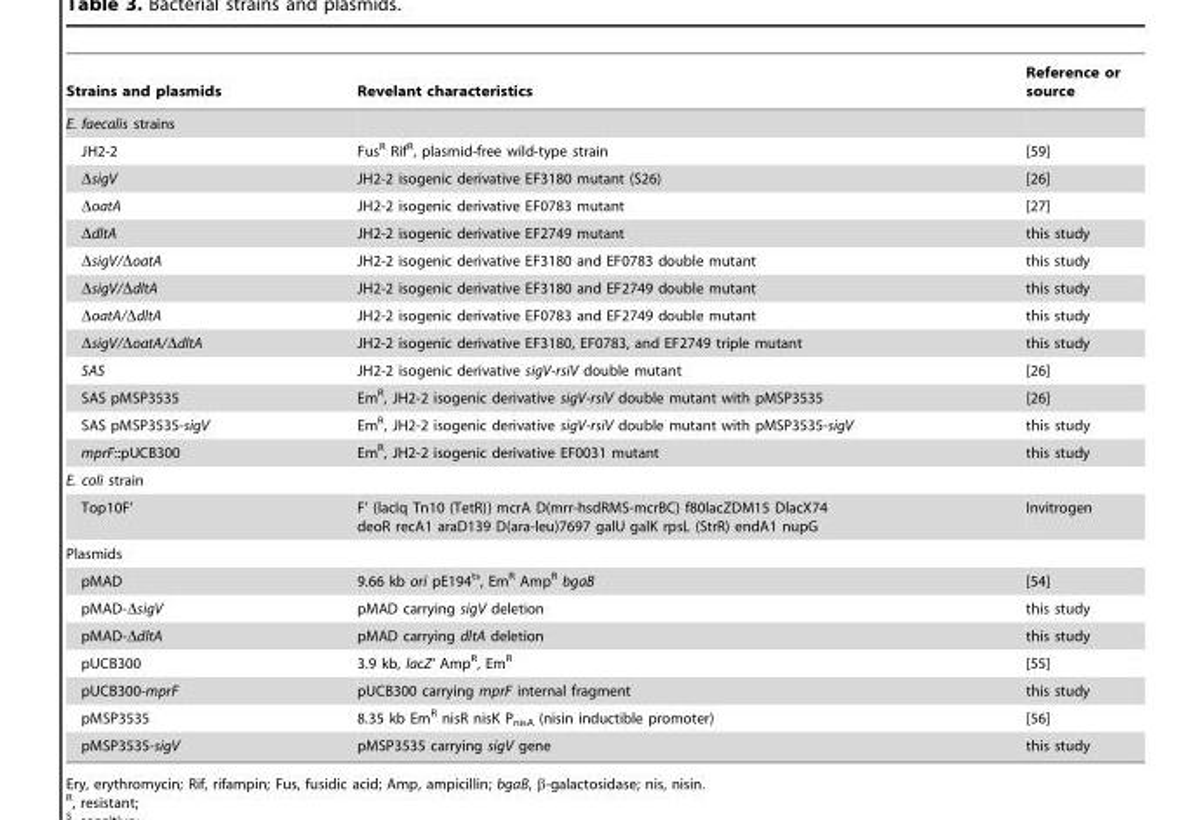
<table><thead><tr><td>Strains and plasmids</td><td>Revelant characteristics</td><td>Reference or source</td></tr></thead><tbody><tr><td colspan="3">E. faecalis strains</td></tr><tr><td>JH2-2</td><td>Fus<sup>R</sup> Rif<sup>R</sup>, plasmid-free wild-type strain</td><td>[59]</td></tr><tr><td>ΔsigV</td><td>JH2-2 isogenic derivative EF3180 mutant (S26)</td><td>[26]</td></tr><tr><td>ΔoatA</td><td>JH2-2 isogenic derivative EF0783 mutant</td><td>[27]</td></tr><tr><td>ΔdltA</td><td>JH2-2 isogenic derivative EF2749 mutant</td><td>this study</td></tr><tr><td>ΔsigV/ΔoatA</td><td>JH2-2 isogenic derivative EF3180 and EF0783 double mutant</td><td>this study</td></tr><tr><td>ΔsigV/ΔdltA</td><td>JH2-2 isogenic derivative EF3180 and EF2749 double mutant</td><td>this study</td></tr><tr><td>ΔoatA/ΔdltA</td><td>JH2-2 isogenic derivative EF0783 and EF2749 double mutant</td><td>this study</td></tr><tr><td>ΔsigV/ΔoatA/ΔdltA</td><td>JH2-2 isogenic derivative EF3180, EF0783, and EF2749 triple mutant</td><td>this study</td></tr><tr><td>SAS</td><td>JH2-2 isogenic derivative sigV-rsiV double mutant</td><td>[26]</td></tr><tr><td>SAS pMSP3535</td><td>Em<sup>R</sup>, JH2-2 isogenic derivative sigV-rsiV double mutant with pMSP3535</td><td>[26]</td></tr><tr><td>SAS pMSP3535-sigV</td><td>Em<sup>R</sup>, JH2-2 isogenic derivative sigV-rsiV double mutant with pMSP3535-sigV</td><td>this study</td></tr><tr><td>mprF::pUCB300</td><td>Em<sup>R</sup>, JH2-2 isogenic derivative EF0031 mutant</td><td>this study</td></tr><tr><td colspan="3">E. coli strain</td></tr><tr><td>Top10F’</td><td>F’ {lacIq Tn10 (TetR)} mcrA D(mrr-hsdRMS-mcrBC) f80lacZDM15 DlacX74 deoR recA1 araD139 D(ara-leu)7697 galU galK rpsL (StrR) endA1 nupG</td><td>Invitrogen</td></tr><tr><td colspan="3">Plasmids</td></tr><tr><td>pMAD</td><td>9.66 kb ori pE194<sup>ts</sup>, Em<sup>R</sup> Amp<sup>R</sup> bgaB</td><td>[54]</td></tr><tr><td>pMAD-ΔsigV</td><td>pMAD carrying sigV deletion</td><td>this study</td></tr><tr><td>pMAD-ΔdltA</td><td>pMAD carrying dltA deletion</td><td>this study</td></tr><tr><td>pUCB300</td><td>3.9 kb, lacZ’ Amp<sup>R</sup>, Em<sup>R</sup></td><td>[55]</td></tr><tr><td>pUCB300-mprF</td><td>pUCB300 carrying mprF internal fragment</td><td>this study</td></tr><tr><td>pMSP3535</td><td>8.35 kb Em<sup>R</sup> nisR nisK P<sub>nisA</sub> (nisin inductible promoter)</td><td>[56]</td></tr><tr><td>pMSP3535-sigV</td><td>pMSP3535 carrying sigV gene</td><td>this study</td></tr></tbody></table>